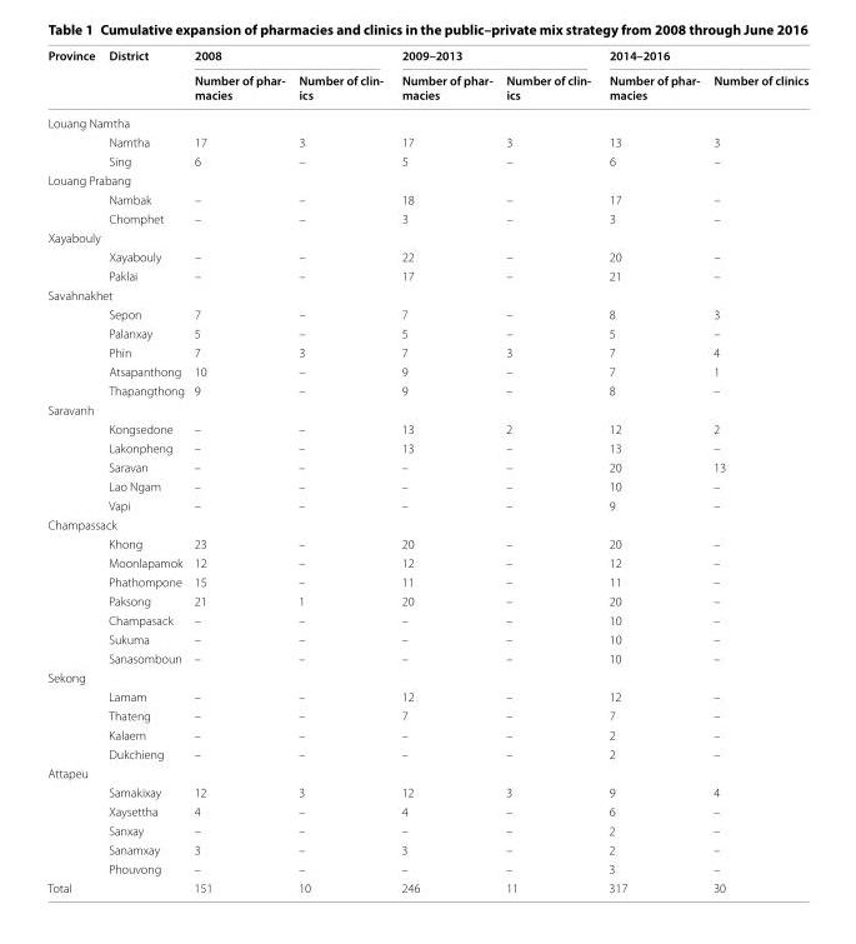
<table><thead><tr><td rowspan="2">Province</td><td rowspan="2">District</td><td colspan="2">2008</td><td colspan="2">2009–2013</td><td colspan="2">2014–2016</td></tr><tr><td>Number of phar‑ macies</td><td>Number of clin‑ ics</td><td>Number of phar‑ macies</td><td>Number of clin‑ ics</td><td>Number of phar‑ macies</td><td>Number of clinics</td></tr></thead><tbody><tr><td colspan="8">Louang Namtha</td></tr><tr><td></td><td>Namtha</td><td>17</td><td>3</td><td>17</td><td>3</td><td>13</td><td>3</td></tr><tr><td></td><td>Sing</td><td>6</td><td>–</td><td>5</td><td>–</td><td>6</td><td>–</td></tr><tr><td colspan="8">Louang Prabang</td></tr><tr><td></td><td>Nambak</td><td>–</td><td>–</td><td>18</td><td>–</td><td>17</td><td>–</td></tr><tr><td></td><td>Chomphet</td><td>–</td><td>–</td><td>3</td><td>–</td><td>3</td><td>–</td></tr><tr><td colspan="8">Xayabouly</td></tr><tr><td></td><td>Xayabouly</td><td>–</td><td>–</td><td>22</td><td>–</td><td>20</td><td>–</td></tr><tr><td></td><td>Paklai</td><td>–</td><td>–</td><td>17</td><td>–</td><td>21</td><td>–</td></tr><tr><td colspan="8">Savahnakhet</td></tr><tr><td></td><td>Sepon</td><td>7</td><td>–</td><td>7</td><td>–</td><td>8</td><td>3</td></tr><tr><td></td><td>Palanxay</td><td>5</td><td>–</td><td>5</td><td>–</td><td>5</td><td>–</td></tr><tr><td></td><td>Phin</td><td>7</td><td>3</td><td>7</td><td>3</td><td>7</td><td>4</td></tr><tr><td></td><td>Atsapanthong</td><td>10</td><td>–</td><td>9</td><td>–</td><td>7</td><td>1</td></tr><tr><td></td><td>Thapangthong</td><td>9</td><td>–</td><td>9</td><td>–</td><td>8</td><td>–</td></tr><tr><td colspan="8">Saravanh</td></tr><tr><td></td><td>Kongsedone</td><td>–</td><td>–</td><td>13</td><td>2</td><td>12</td><td>2</td></tr><tr><td></td><td>Lakonpheng</td><td>–</td><td>–</td><td>13</td><td>–</td><td>13</td><td>–</td></tr><tr><td></td><td>Saravan</td><td>–</td><td>–</td><td>–</td><td>–</td><td>20</td><td>13</td></tr><tr><td></td><td>Lao Ngam</td><td>–</td><td>–</td><td>–</td><td>–</td><td>10</td><td>–</td></tr><tr><td></td><td>Vapi</td><td>–</td><td>–</td><td>–</td><td>–</td><td>9</td><td>–</td></tr><tr><td colspan="8">Champassack</td></tr><tr><td></td><td>Khong</td><td>23</td><td>–</td><td>20</td><td>–</td><td>20</td><td>–</td></tr><tr><td></td><td>Moonlapamok</td><td>12</td><td>–</td><td>12</td><td>–</td><td>12</td><td>–</td></tr><tr><td></td><td>Phathompone</td><td>15</td><td>–</td><td>11</td><td>–</td><td>11</td><td>–</td></tr><tr><td></td><td>Paksong</td><td>21</td><td>1</td><td>20</td><td>–</td><td>20</td><td>–</td></tr><tr><td></td><td>Champasack</td><td>–</td><td>–</td><td>–</td><td>–</td><td>10</td><td>–</td></tr><tr><td></td><td>Sukuma</td><td>–</td><td>–</td><td>–</td><td>–</td><td>10</td><td>–</td></tr><tr><td></td><td>Sanasomboun</td><td>–</td><td>–</td><td>–</td><td>–</td><td>10</td><td>–</td></tr><tr><td colspan="8">Sekong</td></tr><tr><td></td><td>Lamam</td><td>–</td><td>–</td><td>12</td><td>–</td><td>12</td><td>–</td></tr><tr><td></td><td>Thateng</td><td>–</td><td>–</td><td>7</td><td>–</td><td>7</td><td>–</td></tr><tr><td></td><td>Kalaem</td><td>–</td><td>–</td><td>–</td><td>–</td><td>2</td><td>–</td></tr><tr><td></td><td>Dukchieng</td><td>–</td><td>–</td><td>–</td><td>–</td><td>2</td><td>–</td></tr><tr><td colspan="8">Attapeu</td></tr><tr><td></td><td>Samakixay</td><td>12</td><td>3</td><td>12</td><td>3</td><td>9</td><td>4</td></tr><tr><td></td><td>Xaysettha</td><td>4</td><td>–</td><td>4</td><td>–</td><td>6</td><td>–</td></tr><tr><td></td><td>Sanxay</td><td>–</td><td>–</td><td>–</td><td>–</td><td>2</td><td>–</td></tr><tr><td></td><td>Sanamxay</td><td>3</td><td>–</td><td>3</td><td>–</td><td>2</td><td>–</td></tr><tr><td></td><td>Phouvong</td><td>–</td><td>–</td><td>–</td><td>–</td><td>3</td><td>–</td></tr><tr><td>Total</td><td></td><td>151</td><td>10</td><td>246</td><td>11</td><td>317</td><td>30</td></tr></tbody></table>